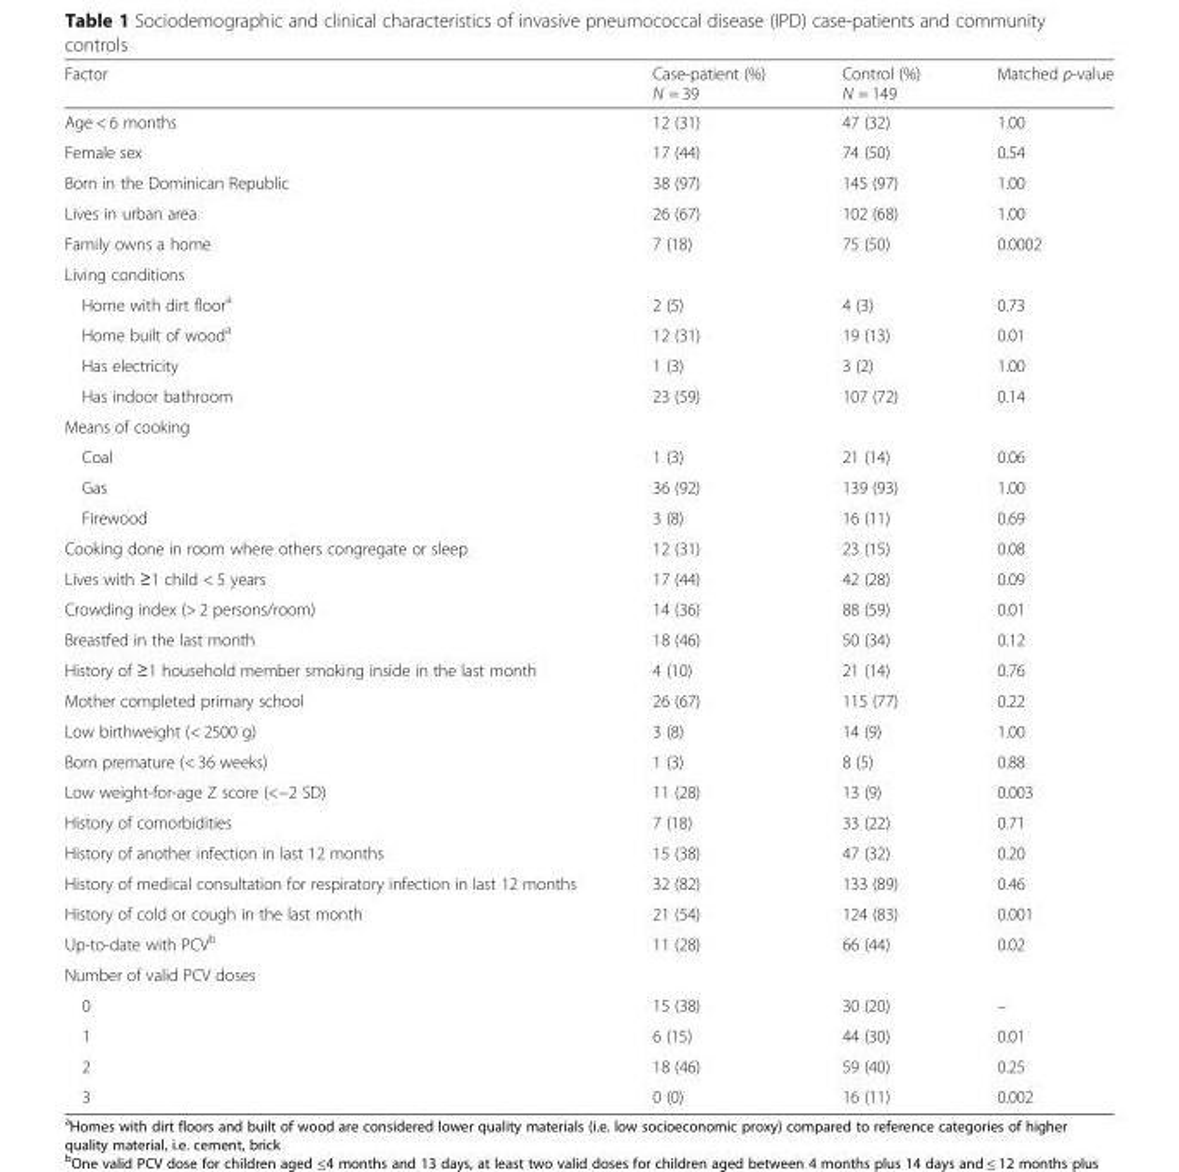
<table><thead><tr><td>Factor</td><td>Case-patient (%) N = 39</td><td>Control (%) N = 149</td><td>Matched p-value</td></tr></thead><tbody><tr><td>Age &lt; 6 months</td><td>12 (31)</td><td>47 (32)</td><td>1.00</td></tr><tr><td>Female sex</td><td>17 (44)</td><td>74 (50)</td><td>0.54</td></tr><tr><td>Born in the Dominican Republic</td><td>38 (97)</td><td>145 (97)</td><td>1.00</td></tr><tr><td>Lives in urban area</td><td>26 (67)</td><td>102 (68)</td><td>1.00</td></tr><tr><td>Family owns a home</td><td>7 (18)</td><td>75 (50)</td><td>0.0002</td></tr><tr><td colspan="4">Living conditions</td></tr><tr><td>Home with dirt floor<sup>a</sup></td><td>2 (5)</td><td>4 (3)</td><td>0.73</td></tr><tr><td>Home built of wood<sup>a</sup></td><td>12 (31)</td><td>19 (13)</td><td>0.01</td></tr><tr><td>Has electricity</td><td>1 (3)</td><td>3 (2)</td><td>1.00</td></tr><tr><td>Has indoor bathroom</td><td>23 (59)</td><td>107 (72)</td><td>0.14</td></tr><tr><td colspan="4">Means of cooking</td></tr><tr><td>Coal</td><td>1 (3)</td><td>21 (14)</td><td>0.06</td></tr><tr><td>Gas</td><td>36 (92)</td><td>139 (93)</td><td>1.00</td></tr><tr><td>Firewood</td><td>3 (8)</td><td>16 (11)</td><td>0.69</td></tr><tr><td>Cooking done in room where others congregate or sleep</td><td>12 (31)</td><td>23 (15)</td><td>0.08</td></tr><tr><td>Lives with ≥1 child &lt; 5 years</td><td>17 (44)</td><td>42 (28)</td><td>0.09</td></tr><tr><td>Crowding index (&gt; 2 persons/room)</td><td>14 (36)</td><td>88 (59)</td><td>0.01</td></tr><tr><td>Breastfed in the last month</td><td>18 (46)</td><td>50 (34)</td><td>0.12</td></tr><tr><td>History of ≥1 household member smoking inside in the last month</td><td>4 (10)</td><td>21 (14)</td><td>0.76</td></tr><tr><td>Mother completed primary school</td><td>26 (67)</td><td>115 (77)</td><td>0.22</td></tr><tr><td>Low birthweight (&lt; 2500 g)</td><td>3 (8)</td><td>14 (9)</td><td>1.00</td></tr><tr><td>Born premature (&lt; 36 weeks)</td><td>1 (3)</td><td>8 (5)</td><td>0.88</td></tr><tr><td>Low weight-for-age Z score (&lt;−2 SD)</td><td>11 (28)</td><td>13 (9)</td><td>0.003</td></tr><tr><td>History of comorbidities</td><td>7 (18)</td><td>33 (22)</td><td>0.71</td></tr><tr><td>History of another infection in last 12 months</td><td>15 (38)</td><td>47 (32)</td><td>0.20</td></tr><tr><td>History of medical consultation for respiratory infection in last 12 months</td><td>32 (82)</td><td>133 (89)</td><td>0.46</td></tr><tr><td>History of cold or cough in the last month</td><td>21 (54)</td><td>124 (83)</td><td>0.001</td></tr><tr><td>Up-to-date with PCV<sup>b</sup></td><td>11 (28)</td><td>66 (44)</td><td>0.02</td></tr><tr><td colspan="4">Number of valid PCV doses</td></tr><tr><td>0</td><td>15 (38)</td><td>30 (20)</td><td>–</td></tr><tr><td>1</td><td>6 (15)</td><td>44 (30)</td><td>0.01</td></tr><tr><td>2</td><td>18 (46)</td><td>59 (40)</td><td>0.25</td></tr><tr><td>3</td><td>0 (0)</td><td>16 (11)</td><td>0.002</td></tr></tbody></table>